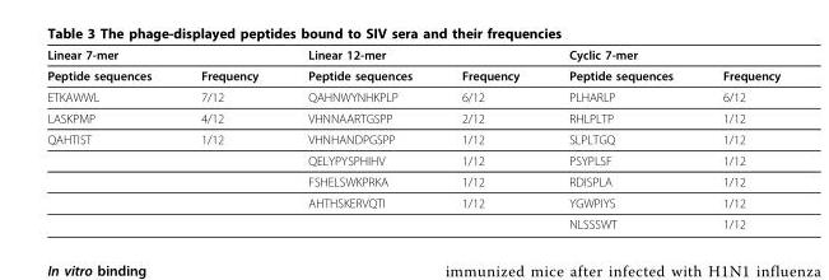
<table><thead><tr><td colspan="2">Linear 7-mer</td><td colspan="2">Linear 12-mer</td><td colspan="2">Cyclic 7-mer</td></tr><tr><td>Peptide sequences</td><td>Frequency</td><td>Peptide sequences</td><td>Frequency</td><td>Peptide sequences</td><td>Frequency</td></tr></thead><tbody><tr><td>ETKAWWL</td><td>7/12</td><td>QAHNWYNHKPLP</td><td>6/12</td><td>PLHARLP</td><td>6/12</td></tr><tr><td>LASKPMP</td><td>4/12</td><td>VHNNAARTGSPP</td><td>2/12</td><td>RHLPLTP</td><td>1/12</td></tr><tr><td rowspan="5">QAHTIST</td><td>1/12</td><td>VHNHANDPGSPP</td><td>1/12</td><td>SLPLTGQ</td><td>1/12</td></tr><tr><td></td><td>QELYPYSPHIHV</td><td>1/12</td><td>PSYPLSF</td><td>1/12</td></tr><tr><td></td><td>FSHELSWKPRKA</td><td>1/12</td><td>RDISPLA</td><td>1/12</td></tr><tr><td></td><td>AHTHSKERVQTI</td><td>1/12</td><td>YGWPIYS</td><td>1/12</td></tr><tr><td></td><td></td><td></td><td>NLSSSWT</td><td>1/12</td></tr></tbody></table>